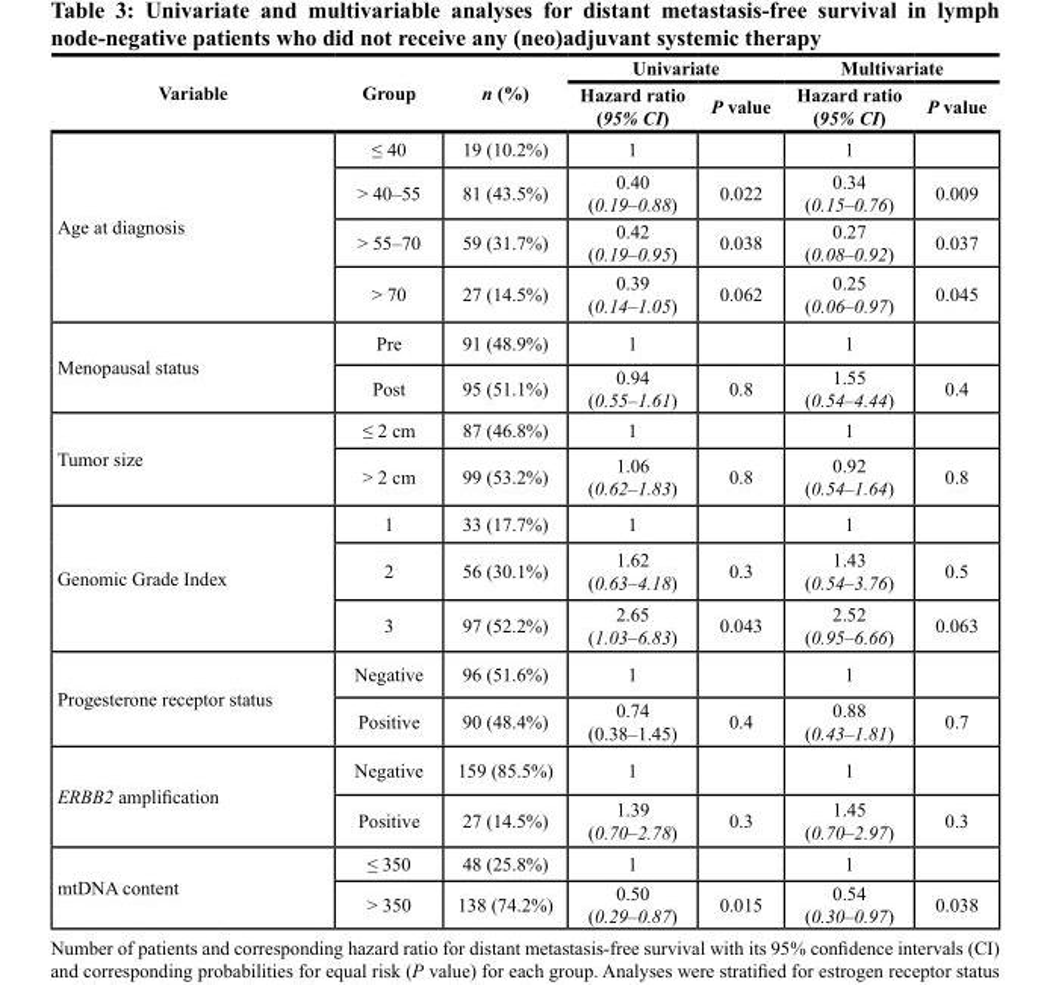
<table><thead><tr><td rowspan="2">Variable</td><td rowspan="2">Group</td><td rowspan="2">n (%)</td><td colspan="2">Univariate</td><td colspan="2">Multivariate</td></tr><tr><td>Hazard ratio (95% CI)</td><td>P value</td><td>Hazard ratio (95% CI)</td><td>P value</td></tr></thead><tbody><tr><td rowspan="4">Age at diagnosis</td><td>≤ 40</td><td>19 (10.2%)</td><td>1</td><td></td><td>1</td><td></td></tr><tr><td>&gt; 40–55</td><td>81 (43.5%)</td><td>0.40 (0.19–0.88)</td><td>0.022</td><td>0.34 (0.15–0.76)</td><td>0.009</td></tr><tr><td>&gt; 55–70</td><td>59 (31.7%)</td><td>0.42 (0.19–0.95)</td><td>0.038</td><td>0.27 (0.08–0.92)</td><td>0.037</td></tr><tr><td>&gt; 70</td><td>27 (14.5%)</td><td>0.39 (0.14–1.05)</td><td>0.062</td><td>0.25 (0.06–0.97)</td><td>0.045</td></tr><tr><td rowspan="2">Menopausal status</td><td>Pre</td><td>91 (48.9%)</td><td>1</td><td></td><td>1</td><td></td></tr><tr><td>Post</td><td>95 (51.1%)</td><td>0.94 (0.55–1.61)</td><td>0.8</td><td>1.55 (0.54–4.44)</td><td>0.4</td></tr><tr><td rowspan="2">Tumor size</td><td>≤ 2 cm</td><td>87 (46.8%)</td><td>1</td><td></td><td>1</td><td></td></tr><tr><td>&gt; 2 cm</td><td>99 (53.2%)</td><td>1.06 (0.62–1.83)</td><td>0.8</td><td>0.92 (0.54–1.64)</td><td>0.8</td></tr><tr><td rowspan="3">Genomic Grade Index</td><td>1</td><td>33 (17.7%)</td><td>1</td><td></td><td>1</td><td></td></tr><tr><td>2</td><td>56 (30.1%)</td><td>1.62 (0.63–4.18)</td><td>0.3</td><td>1.43 (0.54–3.76)</td><td>0.5</td></tr><tr><td>3</td><td>97 (52.2%)</td><td>2.65 (1.03–6.83)</td><td>0.043</td><td>2.52 (0.95–6.66)</td><td>0.063</td></tr><tr><td rowspan="2">Progesterone receptor status</td><td>Negative</td><td>96 (51.6%)</td><td>1</td><td></td><td>1</td><td></td></tr><tr><td>Positive</td><td>90 (48.4%)</td><td>0.74 (0.38–1.45)</td><td>0.4</td><td>0.88 (0.43–1.81)</td><td>0.7</td></tr><tr><td rowspan="2">ERBB2 amplification</td><td>Negative</td><td>159 (85.5%)</td><td>1</td><td></td><td>1</td><td></td></tr><tr><td>Positive</td><td>27 (14.5%)</td><td>1.39 (0.70–2.78)</td><td>0.3</td><td>1.45 (0.70–2.97)</td><td>0.3</td></tr><tr><td rowspan="2">mtDNA content</td><td>≤ 350</td><td>48 (25.8%)</td><td>1</td><td></td><td>1</td><td></td></tr><tr><td>&gt; 350</td><td>138 (74.2%)</td><td>0.50 (0.29–0.87)</td><td>0.015</td><td>0.54 (0.30–0.97)</td><td>0.038</td></tr></tbody></table>